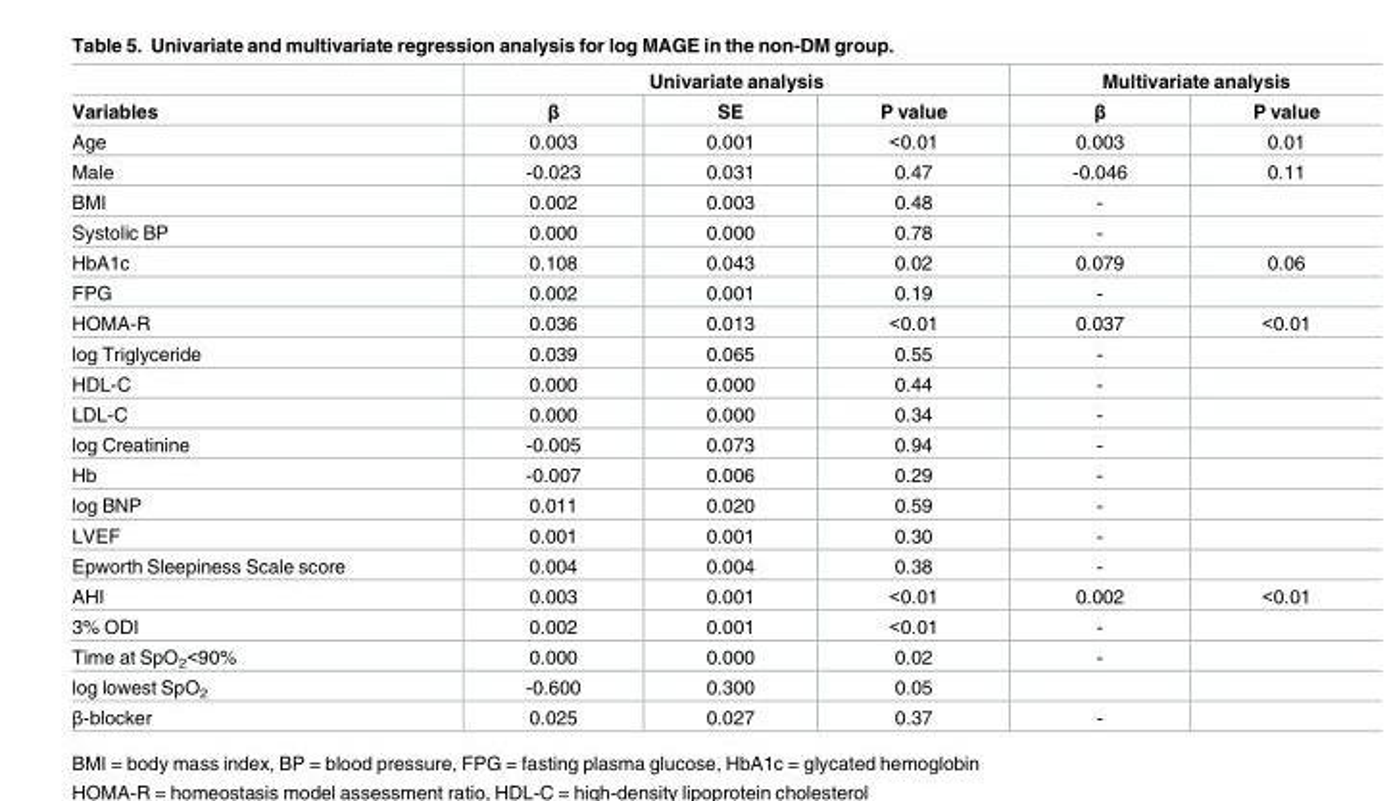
<table><thead><tr><td rowspan="2">Variables</td><td colspan="3">Univariate analysis</td><td colspan="2">Multivariate analysis</td></tr><tr><td>β</td><td>SE</td><td>P value</td><td>β</td><td>P value</td></tr></thead><tbody><tr><td>Age</td><td>0.003</td><td>0.001</td><td>&lt;0.01</td><td>0.003</td><td>0.01</td></tr><tr><td>Male</td><td>-0.023</td><td>0.031</td><td>0.47</td><td>-0.046</td><td>0.11</td></tr><tr><td>BMI</td><td>0.002</td><td>0.003</td><td>0.48</td><td>-</td><td></td></tr><tr><td>Systolic BP</td><td>0.000</td><td>0.000</td><td>0.78</td><td>-</td><td></td></tr><tr><td>HbA1c</td><td>0.108</td><td>0.043</td><td>0.02</td><td>0.079</td><td>0.06</td></tr><tr><td>FPG</td><td>0.002</td><td>0.001</td><td>0.19</td><td>-</td><td></td></tr><tr><td>HOMA-R</td><td>0.036</td><td>0.013</td><td>&lt;0.01</td><td>0.037</td><td>&lt;0.01</td></tr><tr><td>log Triglyceride</td><td>0.039</td><td>0.065</td><td>0.55</td><td>-</td><td></td></tr><tr><td>HDL-C</td><td>0.000</td><td>0.000</td><td>0.44</td><td>-</td><td></td></tr><tr><td>LDL-C</td><td>0.000</td><td>0.000</td><td>0.34</td><td>-</td><td></td></tr><tr><td>log Creatinine</td><td>-0.005</td><td>0.073</td><td>0.94</td><td>-</td><td></td></tr><tr><td>Hb</td><td>-0.007</td><td>0.006</td><td>0.29</td><td>-</td><td></td></tr><tr><td>log BNP</td><td>0.011</td><td>0.020</td><td>0.59</td><td>-</td><td></td></tr><tr><td>LVEF</td><td>0.001</td><td>0.001</td><td>0.30</td><td>-</td><td></td></tr><tr><td>Epworth Sleepiness Scale score</td><td>0.004</td><td>0.004</td><td>0.38</td><td>-</td><td></td></tr><tr><td>AHI</td><td>0.003</td><td>0.001</td><td>&lt;0.01</td><td>0.002</td><td>&lt;0.01</td></tr><tr><td>3% ODI</td><td>0.002</td><td>0.001</td><td>&lt;0.01</td><td>-</td><td></td></tr><tr><td>Time at SpO<sub>2</sub>&lt;90%</td><td>0.000</td><td>0.000</td><td>0.02</td><td>-</td><td></td></tr><tr><td>log lowest SpO<sub>2</sub></td><td>-0.600</td><td>0.300</td><td>0.05</td><td></td><td></td></tr><tr><td>β-blocker</td><td>0.025</td><td>0.027</td><td>0.37</td><td>-</td><td></td></tr></tbody></table>